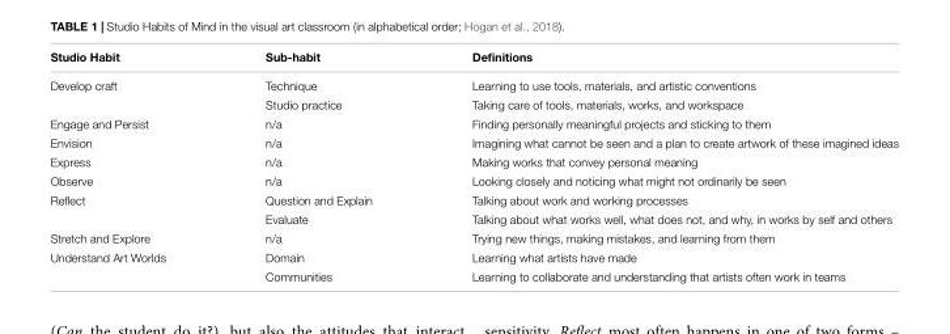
<table><thead><tr><td>Studio Habit</td><td>Sub-habit</td><td>Definitions</td></tr></thead><tbody><tr><td rowspan="2">Develop craft</td><td>Technique</td><td>Learning to use tools, materials, and artistic conventions</td></tr><tr><td>Studio practice</td><td>Taking care of tools, materials, works, and workspace</td></tr><tr><td>Engage and Persist</td><td>n/a</td><td>Finding personally meaningful projects and sticking to them</td></tr><tr><td>Envision</td><td>n/a</td><td>Imagining what cannot be seen and a plan to create artwork of these imagined ideas</td></tr><tr><td>Express</td><td>n/a</td><td>Making works that convey personal meaning</td></tr><tr><td>Observe</td><td>n/a</td><td>Looking closely and noticing what might not ordinarily be seen</td></tr><tr><td rowspan="2">Reflect</td><td>Question and Explain</td><td>Talking about work and working processes</td></tr><tr><td>Evaluate</td><td>Talking about what works well, what does not, and why, in works by self and others</td></tr><tr><td>Stretch and Explore</td><td>n/a</td><td>Trying new things, making mistakes, and learning from them</td></tr><tr><td rowspan="2">Understand Art Worlds</td><td>Domain</td><td>Learning what artists have made</td></tr><tr><td>Communities</td><td>Learning to collaborate and understanding that artists often work in teams</td></tr></tbody></table>